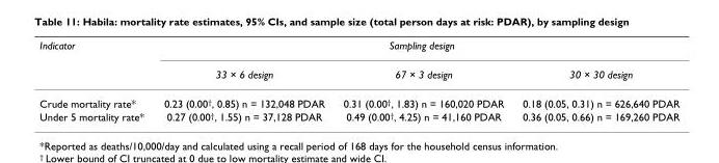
<table><thead><tr><td rowspan="2">Indicator</td><td colspan="3">Sampling design</td></tr><tr><td>33 × 6 design</td><td>67 × 3 design</td><td>30 × 30 design</td></tr></thead><tbody><tr><td>Crude mortality rate*</td><td>0.23 (0.00<sup>†</sup>, 0.85) n = 132,048 PDAR</td><td>0.31 (0.00<sup>†</sup>, 1.83) n = 160,020 PDAR</td><td>0.18 (0.05, 0.31) n = 626,640 PDAR</td></tr><tr><td>Under 5 mortality rate*</td><td>0.27 (0.00<sup>†</sup>, 1.55) n = 37,128 PDAR</td><td>0.49 (0.00<sup>†</sup>, 4.25) n = 41,160 PDAR</td><td>0.36 (0.05, 0.66) n = 169,260 PDAR</td></tr></tbody></table>